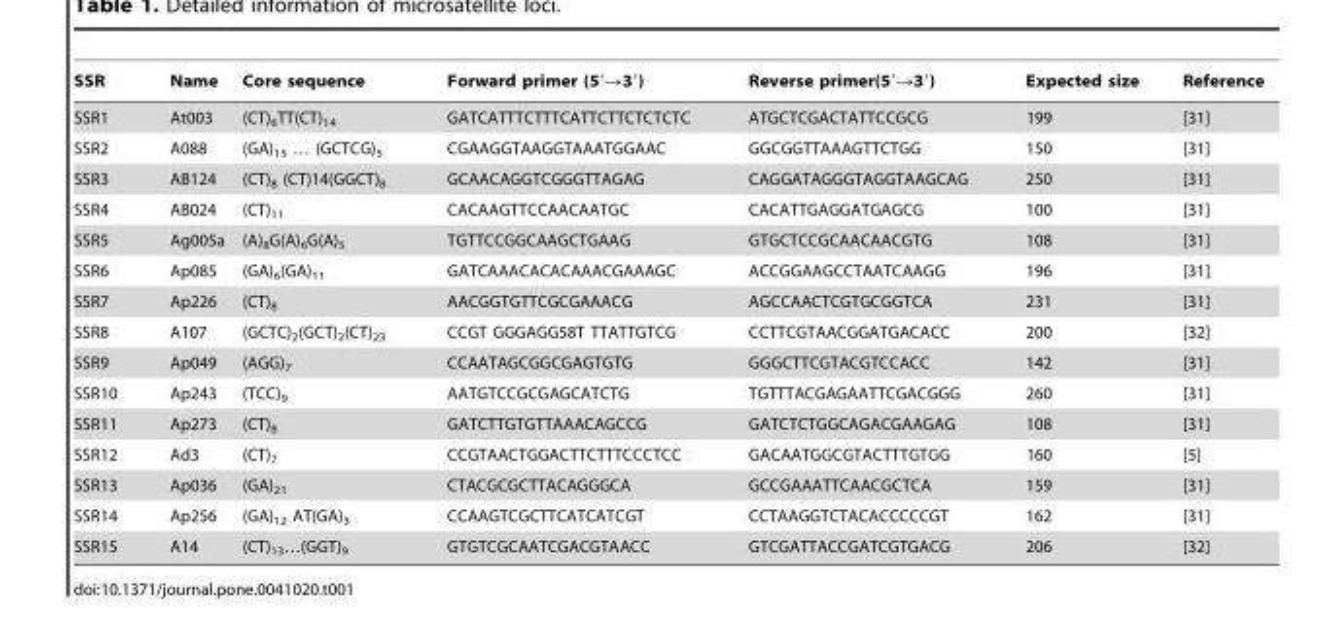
<table><thead><tr><td>SSR</td><td>Name</td><td>Core sequence</td><td>Forward primer (5′→3′)</td><td>Reverse primer(5′→3′)</td><td>Expected size</td><td>Reference</td></tr></thead><tbody><tr><td>SSR1</td><td>At003</td><td>(CT)<sub>6</sub>TT(CT)<sub>14</sub></td><td>GATCATTTCTTTCATTCTTCTCTCTC</td><td>ATGCTCGACTATTCCGCG</td><td>199</td><td>[31]</td></tr><tr><td>SSR2</td><td>A088</td><td>(GA)<sub>15</sub> … (GCTCG)<sub>5</sub></td><td>CGAAGGTAAGGTAAATGGAAC</td><td>GGCGGTTAAAGTTCTGG</td><td>150</td><td>[31]</td></tr><tr><td>SSR3</td><td>AB124</td><td>(CT)<sub>8</sub> (CT)14(GGCT)<sub>8</sub></td><td>GCAACAGGTCGGGTTAGAG</td><td>CAGGATAGGGTAGGTAAGCAG</td><td>250</td><td>[31]</td></tr><tr><td>SSR4</td><td>AB024</td><td>(CT)<sub>11</sub></td><td>CACAAGTTCCAACAATGC</td><td>CACATTGAGGATGAGCG</td><td>100</td><td>[31]</td></tr><tr><td>SSR5</td><td>Ag005a</td><td>(A)<sub>8</sub>G(A)<sub>6</sub>G(A)<sub>5</sub></td><td>TGTTCCGGCAAGCTGAAG</td><td>GTGCTCCGCAACAACGTG</td><td>108</td><td>[31]</td></tr><tr><td>SSR6</td><td>Ap085</td><td>(GA)<sub>6</sub>(GA)<sub>11</sub></td><td>GATCAAACACACAAACGAAAGC</td><td>ACCGGAAGCCTAATCAAGG</td><td>196</td><td>[31]</td></tr><tr><td>SSR7</td><td>Ap226</td><td>(CT)<sub>8</sub></td><td>AACGGTGTTCGCGAAACG</td><td>AGCCAACTCGTGCGGTCA</td><td>231</td><td>[31]</td></tr><tr><td>SSR8</td><td>A107</td><td>(GCTC)<sub>2</sub>(GCT)<sub>2</sub>(CT)<sub>23</sub></td><td>CCGT GGGAGG58T TTATTGTCG</td><td>CCTTCGTAACGGATGACACC</td><td>200</td><td>[32]</td></tr><tr><td>SSR9</td><td>Ap049</td><td>(AGG)<sub>7</sub></td><td>CCAATAGCGGCGAGTGTG</td><td>GGGCTTCGTACGTCCACC</td><td>142</td><td>[31]</td></tr><tr><td>SSR10</td><td>Ap243</td><td>(TCC)<sub>9</sub></td><td>AATGTCCGCGAGCATCTG</td><td>TGTTTACGAGAATTCGACGGG</td><td>260</td><td>[31]</td></tr><tr><td>SSR11</td><td>Ap273</td><td>(CT)<sub>8</sub></td><td>GATCTTGTGTTAAACAGCCG</td><td>GATCTCTGGCAGACGAAGAG</td><td>108</td><td>[31]</td></tr><tr><td>SSR12</td><td>Ad3</td><td>(CT)<sub>7</sub></td><td>CCGTAACTGGACTTCTTTCCCTCC</td><td>GACAATGGCGTACTTTGTGG</td><td>160</td><td>[5]</td></tr><tr><td>SSR13</td><td>Ap036</td><td>(GA)<sub>21</sub></td><td>CTACGCGCTTACAGGGCA</td><td>GCCGAAATTCAACGCTCA</td><td>159</td><td>[31]</td></tr><tr><td>SSR14</td><td>Ap256</td><td>(GA)<sub>12</sub> AT(GA)<sub>3</sub></td><td>CCAAGTCGCTTCATCATCGT</td><td>CCTAAGGTCTACACCCCCGT</td><td>162</td><td>[31]</td></tr><tr><td>SSR15</td><td>A14</td><td>(CT)<sub>13</sub>…(GGT)<sub>9</sub></td><td>GTGTCGCAATCGACGTAACC</td><td>GTCGATTACCGATCGTGACG</td><td>206</td><td>[32]</td></tr></tbody></table>